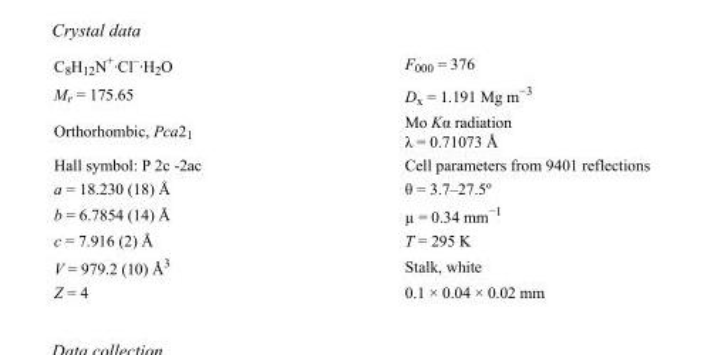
<table><tbody><tr><td>C<sub>8</sub>H<sub>12</sub>N<sup>+</sup>·Cl<sup>–</sup>·H<sub>2</sub>O</td><td>F000 = 376</td></tr><tr><td>M<sub>r</sub> = 175.65</td><td>D<sub>x</sub> = 1.191 Mg m<sup>−3</sup></td></tr><tr><td>Orthorhombic, Pca2<sub>1</sub></td><td>Mo Kα radiation λ = 0.71073 Å</td></tr><tr><td>Hall symbol: P 2c -2ac</td><td>Cell parameters from 9401 reflections</td></tr><tr><td>a = 18.230 (18) Å</td><td>θ = 3.7–27.5º</td></tr><tr><td>b = 6.7854 (14) Å</td><td>µ = 0.34 mm<sup>−1</sup></td></tr><tr><td>c = 7.916 (2) Å</td><td>T = 295 K</td></tr><tr><td>V = 979.2 (10) Å<sup>3</sup></td><td>Stalk, white</td></tr><tr><td>Z = 4</td><td>0.1 × 0.04 × 0.02 mm</td></tr></tbody></table>